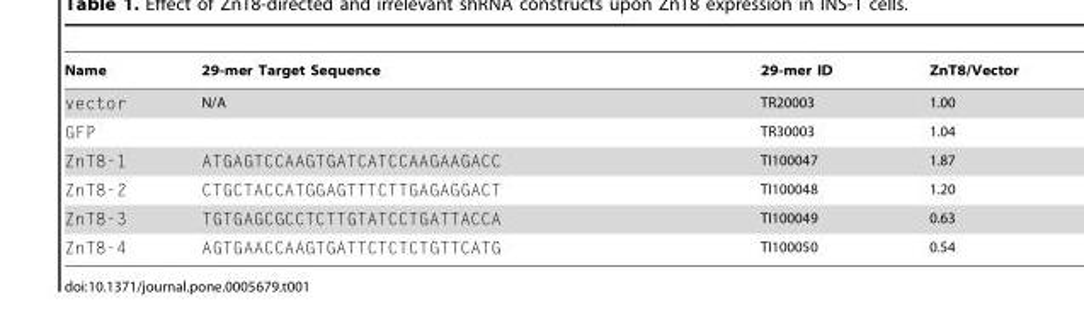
<table><thead><tr><td>Name</td><td>29-mer Target Sequence</td><td>29-mer ID</td><td>ZnT8/Vector</td></tr></thead><tbody><tr><td>vector</td><td>N/A</td><td>TR20003</td><td>1.00</td></tr><tr><td>GFP</td><td></td><td>TR30003</td><td>1.04</td></tr><tr><td>ZnT8-1</td><td>ATGAGTCCAAGTGATCATCCAAGAAGACC</td><td>TI100047</td><td>1.87</td></tr><tr><td>ZnT8-2</td><td>CTGCTACCATGGAGTTTCTTGAGAGGACT</td><td>TI100048</td><td>1.20</td></tr><tr><td>ZnT8-3</td><td>TGTGAGCGCCTCTTGTATCCTGATTACCA</td><td>TI100049</td><td>0.63</td></tr><tr><td>ZnT8-4</td><td>AGTGAACCAAGTGATTCTCTCTGTTCATG</td><td>TI100050</td><td>0.54</td></tr></tbody></table>